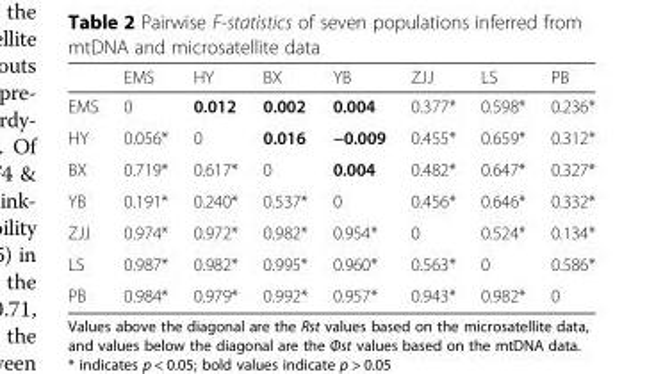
<table><thead><tr><td></td><td>EMS</td><td>HY</td><td>BX</td><td>YB</td><td>ZJJ</td><td>LS</td><td>PB</td></tr></thead><tbody><tr><td>EMS</td><td>0</td><td>0.012</td><td>0.002</td><td>0.004</td><td>0.377*</td><td>0.598*</td><td>0.236*</td></tr><tr><td>HY</td><td>0.056*</td><td>0</td><td>0.016</td><td>−0.009</td><td>0.455*</td><td>0.659*</td><td>0.312*</td></tr><tr><td>BX</td><td>0.719*</td><td>0.617*</td><td>0</td><td>0.004</td><td>0.482*</td><td>0.647*</td><td>0.327*</td></tr><tr><td>YB</td><td>0.191*</td><td>0.240*</td><td>0.537*</td><td>0</td><td>0.456*</td><td>0.646*</td><td>0.332*</td></tr><tr><td>ZJJ</td><td>0.974*</td><td>0.972*</td><td>0.982*</td><td>0.954*</td><td>0</td><td>0.524*</td><td>0.134*</td></tr><tr><td>LS</td><td>0.987*</td><td>0.982*</td><td>0.995*</td><td>0.960*</td><td>0.563*</td><td>0</td><td>0.586*</td></tr><tr><td>PB</td><td>0.984*</td><td>0.979*</td><td>0.992*</td><td>0.957*</td><td>0.943*</td><td>0.982*</td><td>0</td></tr></tbody></table>